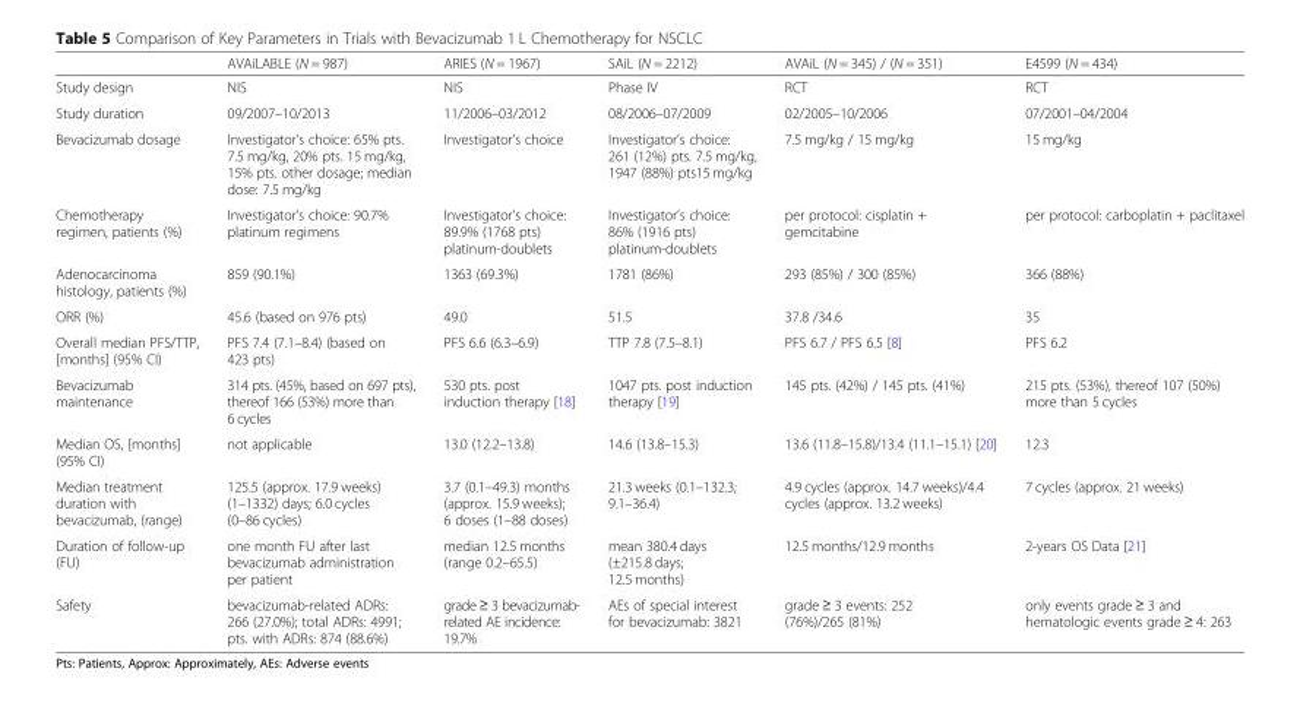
<table><thead><tr><td></td><td>AVAiLABLE (N = 987)</td><td>ARIES (N = 1967)</td><td>SAiL (N = 2212)</td><td>AVAiL (N = 345) / (N = 351)</td><td>E4599 (N = 434)</td></tr></thead><tbody><tr><td>Study design</td><td>NIS</td><td>NIS</td><td>Phase IV</td><td>RCT</td><td>RCT</td></tr><tr><td>Study duration</td><td>09/2007–10/2013</td><td>11/2006–03/2012</td><td>08/2006–07/2009</td><td>02/2005–10/2006</td><td>07/2001–04/2004</td></tr><tr><td>Bevacizumab dosage</td><td>Investigator’s choice: 65% pts. 7.5 mg/kg, 20% pts. 15 mg/kg, 15% pts. other dosage; median dose: 7.5 mg/kg</td><td>Investigator’s choice</td><td>Investigator’s choice: 261 (12%) pts. 7.5 mg/kg, 1947 (88%) pts15 mg/kg</td><td>7.5 mg/kg / 15 mg/kg</td><td>15 mg/kg</td></tr><tr><td>Chemotherapy regimen, patients (%)</td><td>Investigator’s choice: 90.7% platinum regimens</td><td>Investigator’s choice: 89.9% (1768 pts) platinum-doublets</td><td>Investigator’s choice: 86% (1916 pts) platinum-doublets</td><td>per protocol: cisplatin + gemcitabine</td><td>per protocol: carboplatin + paclitaxel</td></tr><tr><td>Adenocarcinoma histology, patients (%)</td><td>859 (90.1%)</td><td>1363 (69.3%)</td><td>1781 (86%)</td><td>293 (85%) / 300 (85%)</td><td>366 (88%)</td></tr><tr><td>ORR (%)</td><td>45.6 (based on 976 pts)</td><td>49.0</td><td>51.5</td><td>37.8 /34.6</td><td>35</td></tr><tr><td>Overall median PFS/TTP, [months] (95% CI)</td><td>PFS 7.4 (7.1–8.4) (based on 423 pts)</td><td>PFS 6.6 (6.3–6.9)</td><td>TTP 7.8 (7.5–8.1)</td><td>PFS 6.7 / PFS 6.5 [8]</td><td>PFS 6.2</td></tr><tr><td>Bevacizumab maintenance</td><td>314 pts. (45%, based on 697 pts), thereof 166 (53%) more than 6 cycles</td><td>530 pts. post induction therapy [18]</td><td>1047 pts. post induction therapy [19]</td><td>145 pts. (42%) / 145 pts. (41%)</td><td>215 pts. (53%), thereof 107 (50%) more than 5 cycles</td></tr><tr><td>Median OS, [months] (95% CI)</td><td>not applicable</td><td>13.0 (12.2–13.8)</td><td>14.6 (13.8–15.3)</td><td>13.6 (11.8–15.8)/13.4 (11.1–15.1) [20]</td><td>12.3</td></tr><tr><td>Median treatment duration with bevacizumab, (range)</td><td>125.5 (approx. 17.9 weeks) (1–1332) days; 6.0 cycles (0–86 cycles)</td><td>3.7 (0.1–49.3) months (approx. 15.9 weeks); 6 doses (1–88 doses)</td><td>21.3 weeks (0.1–132.3; 9.1–36.4)</td><td>4.9 cycles (approx. 14.7 weeks)/4.4 cycles (approx. 13.2 weeks)</td><td>7 cycles (approx. 21 weeks)</td></tr><tr><td>Duration of follow-up (FU)</td><td>one month FU after last bevacizumab administration per patient</td><td>median 12.5 months (range 0.2–65.5)</td><td>mean 380.4 days (±215.8 days; 12.5 months)</td><td>12.5 months/12.9 months</td><td>2-years OS Data [21]</td></tr><tr><td>Safety</td><td>bevacizumab-related ADRs: 266 (27.0%); total ADRs: 4991; pts. with ADRs: 874 (88.6%)</td><td>grade ≥ 3 bevacizumab- related AE incidence: 19.7%</td><td>AEs of special interest for bevacizumab: 3821</td><td>grade ≥ 3 events: 252 (76%)/265 (81%)</td><td>only events grade ≥ 3 and hematologic events grade ≥ 4: 263</td></tr></tbody></table>